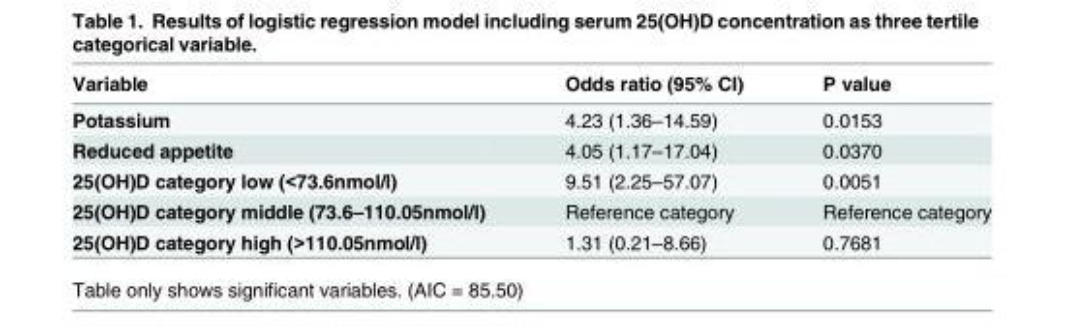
<table><thead><tr><td>Variable</td><td>Odds ratio (95% CI)</td><td>P value</td></tr></thead><tbody><tr><td>Potassium</td><td>4.23 (1.36–14.59)</td><td>0.0153</td></tr><tr><td>Reduced appetite</td><td>4.05 (1.17–17.04)</td><td>0.0370</td></tr><tr><td>25(OH)D category low (&lt;73.6nmol/l)</td><td>9.51 (2.25–57.07)</td><td>0.0051</td></tr><tr><td>25(OH)D category middle (73.6–110.05nmol/l)</td><td>Reference category</td><td>Reference category</td></tr><tr><td>25(OH)D category high (&gt;110.05nmol/l)</td><td>1.31 (0.21–8.66)</td><td>0.7681</td></tr></tbody></table>